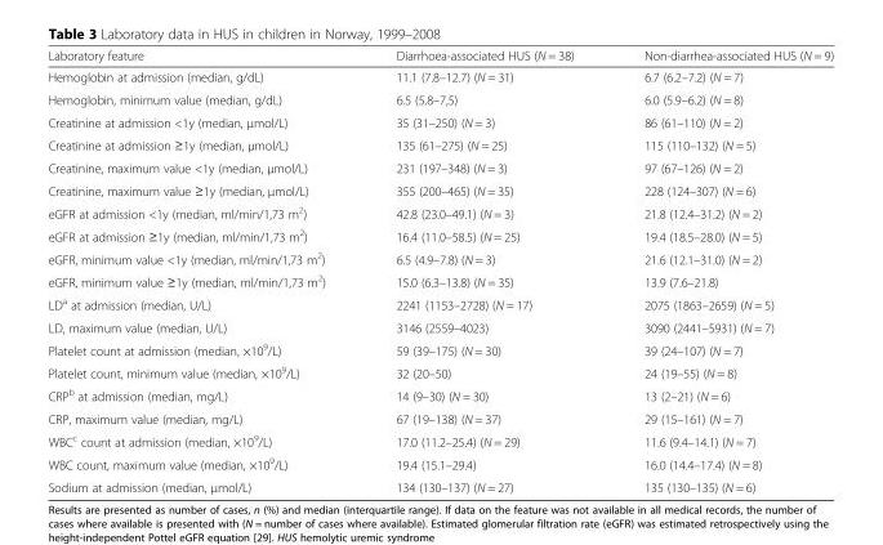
<table><thead><tr><td>Laboratory feature</td><td>Diarrhoea-associated HUS (N = 38)</td><td>Non-diarrhea-associated HUS (N = 9)</td></tr></thead><tbody><tr><td>Hemoglobin at admission (median, g/dL)</td><td>11.1 (7.8–12.7) (N = 31)</td><td>6.7 (6.2–7.2) (N = 7)</td></tr><tr><td>Hemoglobin, minimum value (median, g/dL)</td><td>6.5 (5.8–7,5)</td><td>6.0 (5.9–6.2) (N = 8)</td></tr><tr><td>Creatinine at admission &lt;1y (median, μmol/L)</td><td>35 (31–250) (N = 3)</td><td>86 (61–110) (N = 2)</td></tr><tr><td>Creatinine at admission ≥1y (median, μmol/L)</td><td>135 (61–275) (N = 25)</td><td>115 (110–132) (N = 5)</td></tr><tr><td>Creatinine, maximum value &lt;1y (median, μmol/L)</td><td>231 (197–348) (N = 3)</td><td>97 (67–126) (N = 2)</td></tr><tr><td>Creatinine, maximum value ≥1y (median, μmol/L)</td><td>355 (200–465) (N = 35)</td><td>228 (124–307) (N = 6)</td></tr><tr><td>eGFR at admission &lt;1y (median, ml/min/1,73 m<sup>2</sup>)</td><td>42.8 (23.0–49.1) (N = 3)</td><td>21.8 (12.4–31.2) (N = 2)</td></tr><tr><td>eGFR at admission ≥1y (median, ml/min/1,73 m<sup>2</sup>)</td><td>16.4 (11.0–58.5) (N = 25)</td><td>19.4 (18.5–28.0) (N = 5)</td></tr><tr><td>eGFR, minimum value &lt;1y (median, ml/min/1,73 m<sup>2</sup>)</td><td>6.5 (4.9–7.8) (N = 3)</td><td>21.6 (12.1–31.0) (N = 2)</td></tr><tr><td>eGFR, minimum value ≥1y (median, ml/min/1,73 m<sup>2</sup>)</td><td>15.0 (6.3–13.8) (N = 35)</td><td>13.9 (7.6–21.8)</td></tr><tr><td>LD<sup>a</sup> at admission (median, U/L)</td><td>2241 (1153–2728) (N = 17)</td><td>2075 (1863–2659) (N = 5)</td></tr><tr><td>LD, maximum value (median, U/L)</td><td>3146 (2559–4023)</td><td>3090 (2441–5931) (N = 7)</td></tr><tr><td>Platelet count at admission (median, ×10<sup>9</sup>/L)</td><td>59 (39–175) (N = 30)</td><td>39 (24–107) (N = 7)</td></tr><tr><td>Platelet count, minimum value (median, ×10<sup>9</sup>/L)</td><td>32 (20–50)</td><td>24 (19–55) (N = 8)</td></tr><tr><td>CRP<sup>b</sup> at admission (median, mg/L)</td><td>14 (9–30) (N = 30)</td><td>13 (2–21) (N = 6)</td></tr><tr><td>CRP, maximum value (median, mg/L)</td><td>67 (19–138) (N = 37)</td><td>29 (15–161) (N = 7)</td></tr><tr><td>WBC<sup>c</sup> count at admission (median, ×10<sup>9</sup>/L)</td><td>17.0 (11.2–25.4) (N = 29)</td><td>11.6 (9.4–14.1) (N = 7)</td></tr><tr><td>WBC count, maximum value (median, ×10<sup>9</sup>/L)</td><td>19.4 (15.1–29.4)</td><td>16.0 (14.4–17.4) (N = 8)</td></tr><tr><td>Sodium at admission (median, μmol/L)</td><td>134 (130–137) (N = 27)</td><td>135 (130–135) (N = 6)</td></tr></tbody></table>